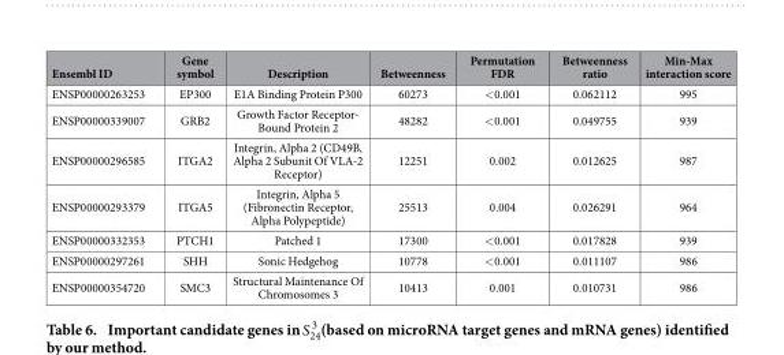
<table><thead><tr><td>Ensembl ID</td><td>Gene symbol</td><td>Description</td><td>Betweenness</td><td>Permutation FDR</td><td>Betweenness ratio</td><td>Min-Max interaction score</td></tr></thead><tbody><tr><td>ENSP00000263253</td><td>EP300</td><td>E1A Binding Protein P300</td><td>60273</td><td>&lt; 0.001</td><td>0.062112</td><td>995</td></tr><tr><td>ENSP00000339007</td><td>GRB2</td><td>Growth Factor Receptor- Bound Protein 2</td><td>48282</td><td>&lt; 0.001</td><td>0.049755</td><td>939</td></tr><tr><td>ENSP00000296585</td><td>ITGA2</td><td>Integrin, Alpha 2 (CD49B, Alpha 2 Subunit Of VLA-2 Receptor)</td><td>12251</td><td>0.002</td><td>0.012625</td><td>987</td></tr><tr><td>ENSP00000293379</td><td>ITGA5</td><td>Integrin, Alpha 5 (Fibronectin Receptor, Alpha Polypeptide)</td><td>25513</td><td>0.004</td><td>0.026291</td><td>964</td></tr><tr><td>ENSP00000332353</td><td>PTCH1</td><td>Patched 1</td><td>17300</td><td>&lt; 0.001</td><td>0.017828</td><td>939</td></tr><tr><td>ENSP00000297261</td><td>SHH</td><td>Sonic Hedgehog</td><td>10778</td><td>&lt; 0.001</td><td>0.011107</td><td>986</td></tr><tr><td>ENSP00000354720</td><td>SMC3</td><td>Structural Maintenance Of Chromosomes 3</td><td>10413</td><td>0.001</td><td>0.010731</td><td>986</td></tr></tbody></table>